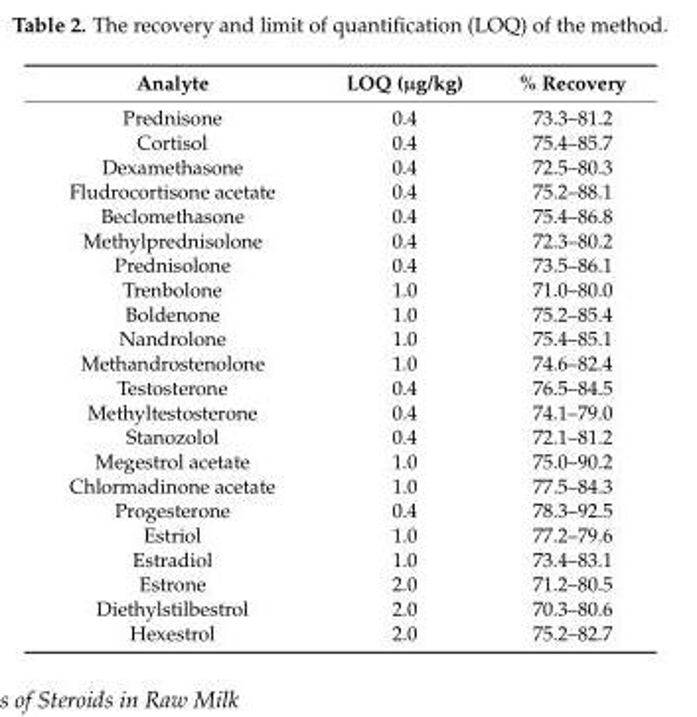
<table><thead><tr><td>Analyte</td><td>LOQ (µg/kg)</td><td>% Recovery</td></tr></thead><tbody><tr><td>Prednisone</td><td>0.4</td><td>73.3–81.2</td></tr><tr><td>Cortisol</td><td>0.4</td><td>75.4–85.7</td></tr><tr><td>Dexamethasone</td><td>0.4</td><td>72.5–80.3</td></tr><tr><td>Fludrocortisone acetate</td><td>0.4</td><td>75.2–88.1</td></tr><tr><td>Beclomethasone</td><td>0.4</td><td>75.4–86.8</td></tr><tr><td>Methylprednisolone</td><td>0.4</td><td>72.3–80.2</td></tr><tr><td>Prednisolone</td><td>0.4</td><td>73.5–86.1</td></tr><tr><td>Trenbolone</td><td>1.0</td><td>71.0–80.0</td></tr><tr><td>Boldenone</td><td>1.0</td><td>75.2–85.4</td></tr><tr><td>Nandrolone</td><td>1.0</td><td>75.4–85.1</td></tr><tr><td>Methandrostenolone</td><td>1.0</td><td>74.6–82.4</td></tr><tr><td>Testosterone</td><td>0.4</td><td>76.5–84.5</td></tr><tr><td>Methyltestosterone</td><td>0.4</td><td>74.1–79.0</td></tr><tr><td>Stanozolol</td><td>0.4</td><td>72.1–81.2</td></tr><tr><td>Megestrol acetate</td><td>1.0</td><td>75.0–90.2</td></tr><tr><td>Chlormadinone acetate</td><td>1.0</td><td>77.5–84.3</td></tr><tr><td>Progesterone</td><td>0.4</td><td>78.3–92.5</td></tr><tr><td>Estriol</td><td>1.0</td><td>77.2–79.6</td></tr><tr><td>Estradiol</td><td>1.0</td><td>73.4–83.1</td></tr><tr><td>Estrone</td><td>2.0</td><td>71.2–80.5</td></tr><tr><td>Diethylstilbestrol</td><td>2.0</td><td>70.3–80.6</td></tr><tr><td>Hexestrol</td><td>2.0</td><td>75.2–82.7</td></tr></tbody></table>